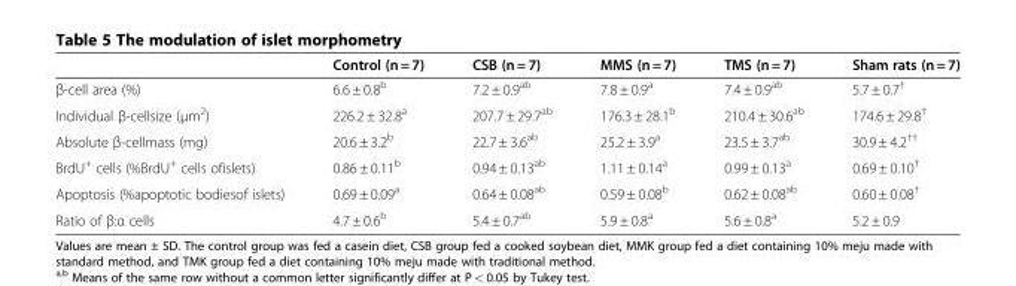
<table><thead><tr><td></td><td>Control (n = 7)</td><td>CSB (n = 7)</td><td>MMS (n = 7)</td><td>TMS (n = 7)</td><td>Sham rats (n = 7)</td></tr></thead><tbody><tr><td>β-cell area (%)</td><td>6.6 ± 0.8<sup>b</sup></td><td>7.2 ± 0.9<sup>ab</sup></td><td>7.8 ± 0.9<sup>a</sup></td><td>7.4 ± 0.9<sup>ab</sup></td><td>5.7 ± 0.7<sup>†</sup></td></tr><tr><td>Individual β-cellsize (μm<sup>2</sup>)</td><td>226.2 ± 32.8<sup>a</sup></td><td>207.7 ± 29.7<sup>ab</sup></td><td>176.3 ± 28.1<sup>b</sup></td><td>210.4 ± 30.6<sup>ab</sup></td><td>174.6 ± 29.8<sup>†</sup></td></tr><tr><td>Absolute β-cellmass (mg)</td><td>20.6 ± 3.2<sup>b</sup></td><td>22.7 ± 3.6<sup>ab</sup></td><td>25.2 ± 3.9<sup>a</sup></td><td>23.5 ± 3.7<sup>ab</sup></td><td>30.9 ± 4.2<sup>††</sup></td></tr><tr><td>BrdU<sup>+</sup> cells (%BrdU<sup>+</sup> cells ofislets)</td><td>0.86 ± 0.11<sup>b</sup></td><td>0.94 ± 0.13<sup>ab</sup></td><td>1.11 ± 0.14<sup>a</sup></td><td>0.99 ± 0.13<sup>a</sup></td><td>0.69 ± 0.10<sup>†</sup></td></tr><tr><td>Apoptosis (%apoptotic bodiesof islets)</td><td>0.69 ± 0.09<sup>a</sup></td><td>0.64 ± 0.08<sup>ab</sup></td><td>0.59 ± 0.08<sup>b</sup></td><td>0.62 ± 0.08<sup>ab</sup></td><td>0.60 ± 0.08<sup>†</sup></td></tr><tr><td>Ratio of β:α cells</td><td>4.7 ± 0.6<sup>b</sup></td><td>5.4 ± 0.7<sup>ab</sup></td><td>5.9 ± 0.8<sup>a</sup></td><td>5.6 ± 0.8<sup>a</sup></td><td>5.2 ± 0.9</td></tr></tbody></table>